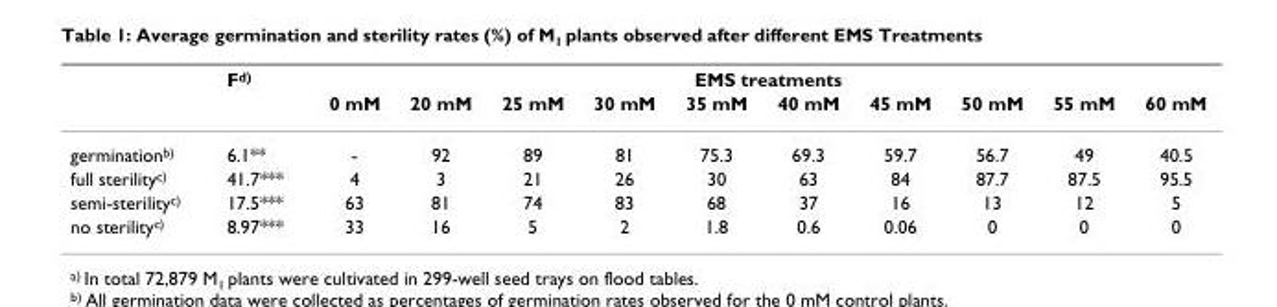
<table><thead><tr><td rowspan="2"></td><td rowspan="2">F<sup>d)</sup></td><td colspan="10">EMS treatments</td></tr><tr><td>0 mM</td><td>20 mM</td><td>25 mM</td><td>30 mM</td><td>35 mM</td><td>40 mM</td><td>45 mM</td><td>50 mM</td><td>55 mM</td><td>60 mM</td></tr></thead><tbody><tr><td>germination<sup>b)</sup></td><td>6.1**</td><td>-</td><td>92</td><td>89</td><td>81</td><td>75.3</td><td>69.3</td><td>59.7</td><td>56.7</td><td>49</td><td>40.5</td></tr><tr><td>full sterility<sup>c)</sup></td><td>41.7***</td><td>4</td><td>3</td><td>21</td><td>26</td><td>30</td><td>63</td><td>84</td><td>87.7</td><td>87.5</td><td>95.5</td></tr><tr><td>semi-sterility<sup>c)</sup></td><td>17.5***</td><td>63</td><td>81</td><td>74</td><td>83</td><td>68</td><td>37</td><td>16</td><td>13</td><td>12</td><td>5</td></tr><tr><td>no sterility<sup>c)</sup></td><td>8.97***</td><td>33</td><td>16</td><td>5</td><td>2</td><td>1.8</td><td>0.6</td><td>0.06</td><td>0</td><td>0</td><td>0</td></tr></tbody></table>